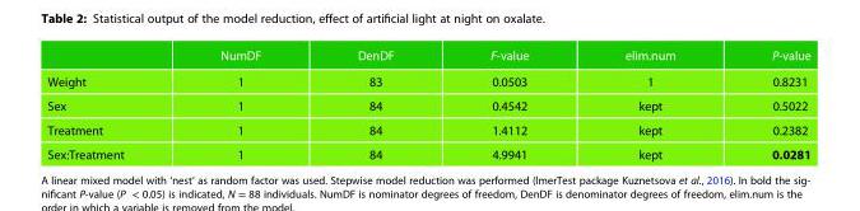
<table><thead><tr><td></td><td>NumDF</td><td>DenDF</td><td>F-value</td><td>elim.num</td><td>P-value</td></tr></thead><tbody><tr><td>Weight</td><td>1</td><td>83</td><td>0.0503</td><td>1</td><td>0.8231</td></tr><tr><td>Sex</td><td>1</td><td>84</td><td>0.4542</td><td>kept</td><td>0.5022</td></tr><tr><td>Treatment</td><td>1</td><td>84</td><td>1.4112</td><td>kept</td><td>0.2382</td></tr><tr><td>Sex:Treatment</td><td>1</td><td>84</td><td>4.9941</td><td>kept</td><td>0.0281</td></tr></tbody></table>